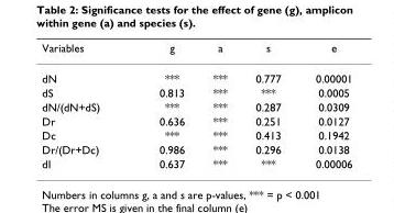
<table><thead><tr><td>Variables</td><td>g</td><td>a</td><td>s</td><td>e</td></tr></thead><tbody><tr><td>dN</td><td>***</td><td>***</td><td>0.777</td><td>0.00001</td></tr><tr><td>dS</td><td>0.813</td><td>***</td><td>***</td><td>0.0005</td></tr><tr><td>dN/(dN+dS)</td><td>***</td><td>***</td><td>0.287</td><td>0.0309</td></tr><tr><td>Dr</td><td>0.636</td><td>***</td><td>0.251</td><td>0.0127</td></tr><tr><td>Dc</td><td>***</td><td>***</td><td>0.413</td><td>0.1942</td></tr><tr><td>Dr/(Dr+Dc)</td><td>0.986</td><td>***</td><td>0.296</td><td>0.0138</td></tr><tr><td>dI</td><td>0.637</td><td>***</td><td>***</td><td>0.00006</td></tr></tbody></table>